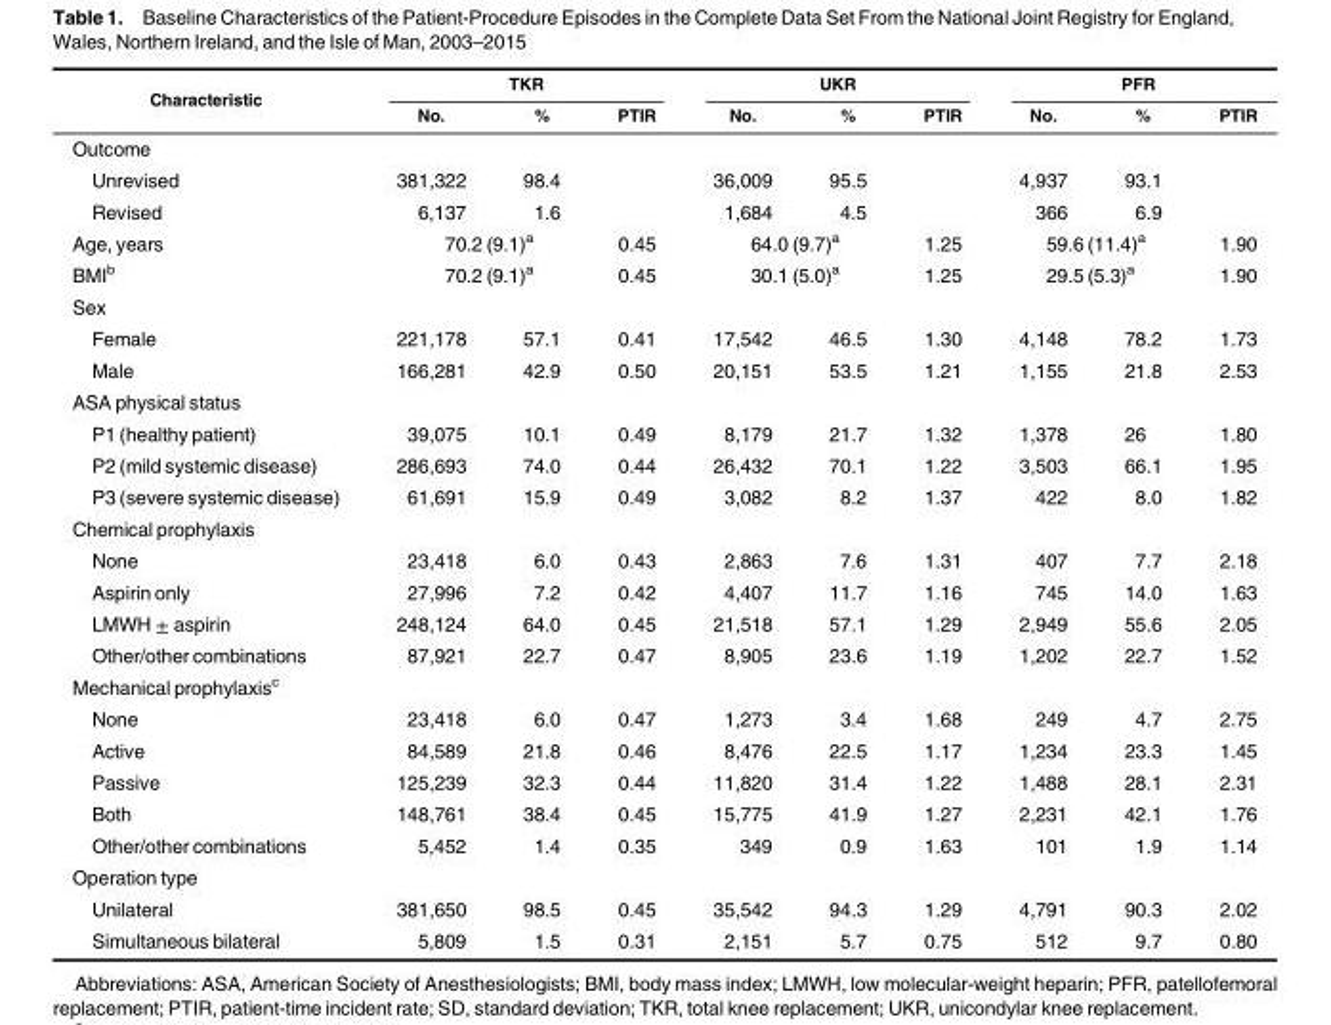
<table><thead><tr><td rowspan="2">Characteristic</td><td colspan="3">TKR</td><td colspan="3">UKR</td><td colspan="3">PFR</td></tr><tr><td>No.</td><td>%</td><td>PTIR</td><td>No.</td><td>%</td><td>PTIR</td><td>No.</td><td>%</td><td>PTIR</td></tr></thead><tbody><tr><td colspan="10">Outcome</td></tr><tr><td>Unrevised</td><td>381,322</td><td>98.4</td><td></td><td>36,009</td><td>95.5</td><td></td><td>4,937</td><td>93.1</td><td></td></tr><tr><td>Revised</td><td>6,137</td><td>1.6</td><td></td><td>1,684</td><td>4.5</td><td></td><td>366</td><td>6.9</td><td></td></tr><tr><td>Age, years</td><td colspan="2">70.2 (9.1)<sup>a</sup></td><td>0.45</td><td colspan="2">64.0 (9.7)<sup>a</sup></td><td>1.25</td><td colspan="2">59.6 (11.4)<sup>a</sup></td><td>1.90</td></tr><tr><td>BMI<sup>b</sup></td><td colspan="2">70.2 (9.1)<sup>a</sup></td><td>0.45</td><td colspan="2">30.1 (5.0)<sup>a</sup></td><td>1.25</td><td colspan="2">29.5 (5.3)<sup>a</sup></td><td>1.90</td></tr><tr><td colspan="10">Sex</td></tr><tr><td>Female</td><td>221,178</td><td>57.1</td><td>0.41</td><td>17,542</td><td>46.5</td><td>1.30</td><td>4,148</td><td>78.2</td><td>1.73</td></tr><tr><td>Male</td><td>166,281</td><td>42.9</td><td>0.50</td><td>20,151</td><td>53.5</td><td>1.21</td><td>1,155</td><td>21.8</td><td>2.53</td></tr><tr><td colspan="10">ASA physical status</td></tr><tr><td>P1 (healthy patient)</td><td>39,075</td><td>10.1</td><td>0.49</td><td>8,179</td><td>21.7</td><td>1.32</td><td>1,378</td><td>26</td><td>1.80</td></tr><tr><td>P2 (mild systemic disease)</td><td>286,693</td><td>74.0</td><td>0.44</td><td>26,432</td><td>70.1</td><td>1.22</td><td>3,503</td><td>66.1</td><td>1.95</td></tr><tr><td>P3 (severe systemic disease)</td><td>61,691</td><td>15.9</td><td>0.49</td><td>3,082</td><td>8.2</td><td>1.37</td><td>422</td><td>8.0</td><td>1.82</td></tr><tr><td colspan="10">Chemical prophylaxis</td></tr><tr><td>None</td><td>23,418</td><td>6.0</td><td>0.43</td><td>2,863</td><td>7.6</td><td>1.31</td><td>407</td><td>7.7</td><td>2.18</td></tr><tr><td>Aspirin only</td><td>27,996</td><td>7.2</td><td>0.42</td><td>4,407</td><td>11.7</td><td>1.16</td><td>745</td><td>14.0</td><td>1.63</td></tr><tr><td>LMWH ± aspirin</td><td>248,124</td><td>64.0</td><td>0.45</td><td>21,518</td><td>57.1</td><td>1.29</td><td>2,949</td><td>55.6</td><td>2.05</td></tr><tr><td>Other/other combinations</td><td>87,921</td><td>22.7</td><td>0.47</td><td>8,905</td><td>23.6</td><td>1.19</td><td>1,202</td><td>22.7</td><td>1.52</td></tr><tr><td colspan="10">Mechanical prophylaxis<sup>c</sup></td></tr><tr><td>None</td><td>23,418</td><td>6.0</td><td>0.47</td><td>1,273</td><td>3.4</td><td>1.68</td><td>249</td><td>4.7</td><td>2.75</td></tr><tr><td>Active</td><td>84,589</td><td>21.8</td><td>0.46</td><td>8,476</td><td>22.5</td><td>1.17</td><td>1,234</td><td>23.3</td><td>1.45</td></tr><tr><td>Passive</td><td>125,239</td><td>32.3</td><td>0.44</td><td>11,820</td><td>31.4</td><td>1.22</td><td>1,488</td><td>28.1</td><td>2.31</td></tr><tr><td>Both</td><td>148,761</td><td>38.4</td><td>0.45</td><td>15,775</td><td>41.9</td><td>1.27</td><td>2,231</td><td>42.1</td><td>1.76</td></tr><tr><td>Other/other combinations</td><td>5,452</td><td>1.4</td><td>0.35</td><td>349</td><td>0.9</td><td>1.63</td><td>101</td><td>1.9</td><td>1.14</td></tr><tr><td colspan="10">Operation type</td></tr><tr><td>Unilateral</td><td>381,650</td><td>98.5</td><td>0.45</td><td>35,542</td><td>94.3</td><td>1.29</td><td>4,791</td><td>90.3</td><td>2.02</td></tr><tr><td>Simultaneous bilateral</td><td>5,809</td><td>1.5</td><td>0.31</td><td>2,151</td><td>5.7</td><td>0.75</td><td>512</td><td>9.7</td><td>0.80</td></tr></tbody></table>